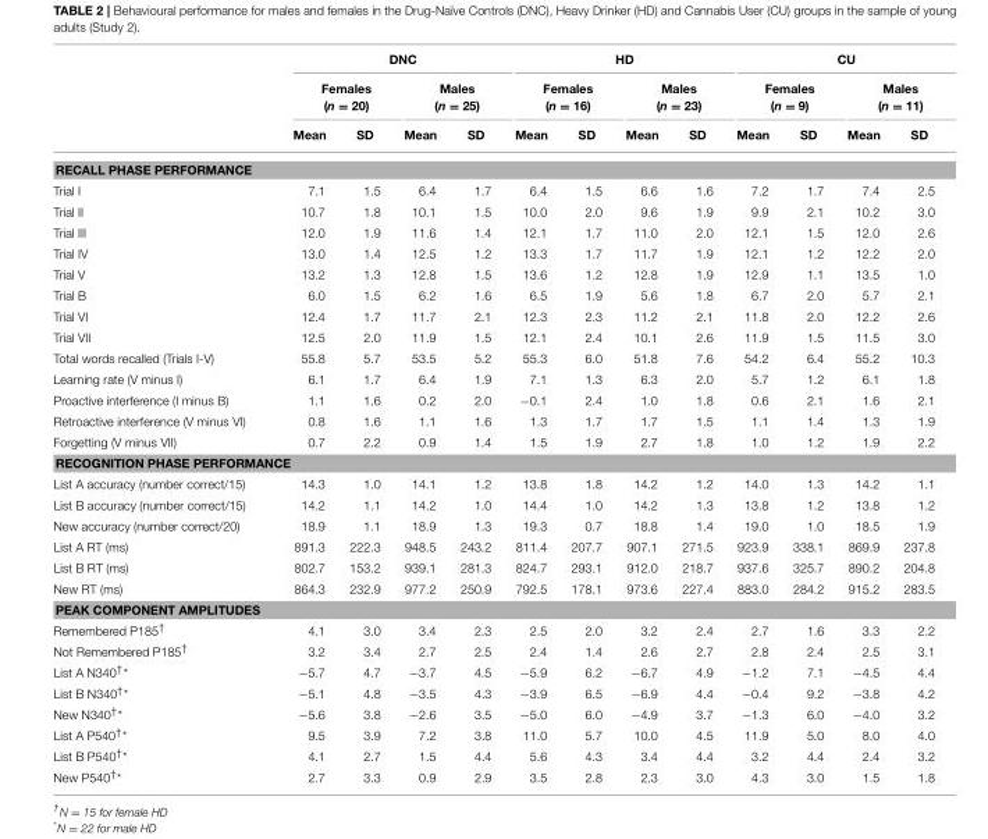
<table><thead><tr><td rowspan="3"></td><td colspan="4">DNC</td><td colspan="4">HD</td><td colspan="4">CU</td></tr><tr><td colspan="2">Females (n = 20)</td><td colspan="2">Males (n = 25)</td><td colspan="2">Females (n = 16)</td><td colspan="2">Males (n = 23)</td><td colspan="2">Females (n = 9)</td><td colspan="2">Males (n = 11)</td></tr><tr><td>Mean</td><td>SD</td><td>Mean</td><td>SD</td><td>Mean</td><td>SD</td><td>Mean</td><td>SD</td><td>Mean</td><td>SD</td><td>Mean</td><td>SD</td></tr></thead><tbody><tr><td colspan="13">RECALL PHASE PERFORMANCE</td></tr><tr><td>Trial I</td><td>7.1</td><td>1.5</td><td>6.4</td><td>1.7</td><td>6.4</td><td>1.5</td><td>6.6</td><td>1.6</td><td>7.2</td><td>1.7</td><td>7.4</td><td>2.5</td></tr><tr><td>Trial II</td><td>10.7</td><td>1.8</td><td>10.1</td><td>1.5</td><td>10.0</td><td>2.0</td><td>9.6</td><td>1.9</td><td>9.9</td><td>2.1</td><td>10.2</td><td>3.0</td></tr><tr><td>Trial III</td><td>12.0</td><td>1.9</td><td>11.6</td><td>1.4</td><td>12.1</td><td>1.7</td><td>11.0</td><td>2.0</td><td>12.1</td><td>1.5</td><td>12.0</td><td>2.6</td></tr><tr><td>Trial IV</td><td>13.0</td><td>1.4</td><td>12.5</td><td>1.2</td><td>13.3</td><td>1.7</td><td>11.7</td><td>1.9</td><td>12.1</td><td>1.2</td><td>12.2</td><td>2.0</td></tr><tr><td>Trial V</td><td>13.2</td><td>1.3</td><td>12.8</td><td>1.5</td><td>13.6</td><td>1.2</td><td>12.8</td><td>1.9</td><td>12.9</td><td>1.1</td><td>13.5</td><td>1.0</td></tr><tr><td>Trial B</td><td>6.0</td><td>1.5</td><td>6.2</td><td>1.6</td><td>6.5</td><td>1.9</td><td>5.6</td><td>1.8</td><td>6.7</td><td>2.0</td><td>5.7</td><td>2.1</td></tr><tr><td>Trial VI</td><td>12.4</td><td>1.7</td><td>11.7</td><td>2.1</td><td>12.3</td><td>2.3</td><td>11.2</td><td>2.1</td><td>11.8</td><td>2.0</td><td>12.2</td><td>2.6</td></tr><tr><td>Trial VII</td><td>12.5</td><td>2.0</td><td>11.9</td><td>1.5</td><td>12.1</td><td>2.4</td><td>10.1</td><td>2.6</td><td>11.9</td><td>1.5</td><td>11.5</td><td>3.0</td></tr><tr><td>Total words recalled (Trials I-V)</td><td>55.8</td><td>5.7</td><td>53.5</td><td>5.2</td><td>55.3</td><td>6.0</td><td>51.8</td><td>7.6</td><td>54.2</td><td>6.4</td><td>55.2</td><td>10.3</td></tr><tr><td>Learning rate (V minus I)</td><td>6.1</td><td>1.7</td><td>6.4</td><td>1.9</td><td>7.1</td><td>1.3</td><td>6.3</td><td>2.0</td><td>5.7</td><td>1.2</td><td>6.1</td><td>1.8</td></tr><tr><td>Proactive interference (I minus B)</td><td>1.1</td><td>1.6</td><td>0.2</td><td>2.0</td><td>−0.1</td><td>2.4</td><td>1.0</td><td>1.8</td><td>0.6</td><td>2.1</td><td>1.6</td><td>2.1</td></tr><tr><td>Retroactive interference (V minus VI)</td><td>0.8</td><td>1.6</td><td>1.1</td><td>1.6</td><td>1.3</td><td>1.7</td><td>1.7</td><td>1.5</td><td>1.1</td><td>1.4</td><td>1.3</td><td>1.9</td></tr><tr><td>Forgetting (V minus VII)</td><td>0.7</td><td>2.2</td><td>0.9</td><td>1.4</td><td>1.5</td><td>1.9</td><td>2.7</td><td>1.8</td><td>1.0</td><td>1.2</td><td>1.9</td><td>2.2</td></tr><tr><td colspan="13">RECOGNITION PHASE PERFORMANCE</td></tr><tr><td>List A accuracy (number correct/15)</td><td>14.3</td><td>1.0</td><td>14.1</td><td>1.2</td><td>13.8</td><td>1.8</td><td>14.2</td><td>1.2</td><td>14.0</td><td>1.3</td><td>14.2</td><td>1.1</td></tr><tr><td>List B accuracy (number correct/15)</td><td>14.2</td><td>1.1</td><td>14.2</td><td>1.0</td><td>14.4</td><td>1.0</td><td>14.2</td><td>1.3</td><td>13.8</td><td>1.2</td><td>13.8</td><td>1.2</td></tr><tr><td>New accuracy (number correct/20)</td><td>18.9</td><td>1.1</td><td>18.9</td><td>1.3</td><td>19.3</td><td>0.7</td><td>18.8</td><td>1.4</td><td>19.0</td><td>1.0</td><td>18.5</td><td>1.9</td></tr><tr><td>List A RT (ms)</td><td>891.3</td><td>222.3</td><td>948.5</td><td>243.2</td><td>811.4</td><td>207.7</td><td>907.1</td><td>271.5</td><td>923.9</td><td>338.1</td><td>869.9</td><td>237.8</td></tr><tr><td>List B RT (ms)</td><td>802.7</td><td>153.2</td><td>939.1</td><td>281.3</td><td>824.7</td><td>293.1</td><td>912.0</td><td>218.7</td><td>937.6</td><td>325.7</td><td>890.2</td><td>204.8</td></tr><tr><td>New RT (ms)</td><td>864.3</td><td>232.9</td><td>977.2</td><td>250.9</td><td>792.5</td><td>178.1</td><td>973.6</td><td>227.4</td><td>883.0</td><td>284.2</td><td>915.2</td><td>283.5</td></tr><tr><td colspan="13">PEAK COMPONENT AMPLITUDES</td></tr><tr><td>Remembered P185<sup>†</sup></td><td>4.1</td><td>3.0</td><td>3.4</td><td>2.3</td><td>2.5</td><td>2.0</td><td>3.2</td><td>2.4</td><td>2.7</td><td>1.6</td><td>3.3</td><td>2.2</td></tr><tr><td>Not Remembered P185<sup>†</sup></td><td>3.2</td><td>3.4</td><td>2.7</td><td>2.5</td><td>2.4</td><td>1.4</td><td>2.6</td><td>2.7</td><td>2.8</td><td>2.4</td><td>2.5</td><td>3.1</td></tr><tr><td>List A N340<sup>†*</sup></td><td>−5.7</td><td>4.7</td><td>−3.7</td><td>4.5</td><td>−5.9</td><td>6.2</td><td>−6.7</td><td>4.9</td><td>−1.2</td><td>7.1</td><td>−4.5</td><td>4.4</td></tr><tr><td>List B N340<sup>†*</sup></td><td>−5.1</td><td>4.8</td><td>−3.5</td><td>4.3</td><td>−3.9</td><td>6.5</td><td>−6.9</td><td>4.4</td><td>−0.4</td><td>9.2</td><td>−3.8</td><td>4.2</td></tr><tr><td>New N340<sup>†*</sup></td><td>−5.6</td><td>3.8</td><td>−2.6</td><td>3.5</td><td>−5.0</td><td>6.0</td><td>−4.9</td><td>3.7</td><td>−1.3</td><td>6.0</td><td>−4.0</td><td>3.2</td></tr><tr><td>List A P540<sup>†*</sup></td><td>9.5</td><td>3.9</td><td>7.2</td><td>3.8</td><td>11.0</td><td>5.7</td><td>10.0</td><td>4.5</td><td>11.9</td><td>5.0</td><td>8.0</td><td>4.0</td></tr><tr><td>List B P540<sup>†*</sup></td><td>4.1</td><td>2.7</td><td>1.5</td><td>4.4</td><td>5.6</td><td>4.3</td><td>3.4</td><td>4.4</td><td>3.2</td><td>4.4</td><td>2.4</td><td>3.2</td></tr><tr><td>New P540<sup>†*</sup></td><td>2.7</td><td>3.3</td><td>0.9</td><td>2.9</td><td>3.5</td><td>2.8</td><td>2.3</td><td>3.0</td><td>4.3</td><td>3.0</td><td>1.5</td><td>1.8</td></tr></tbody></table>